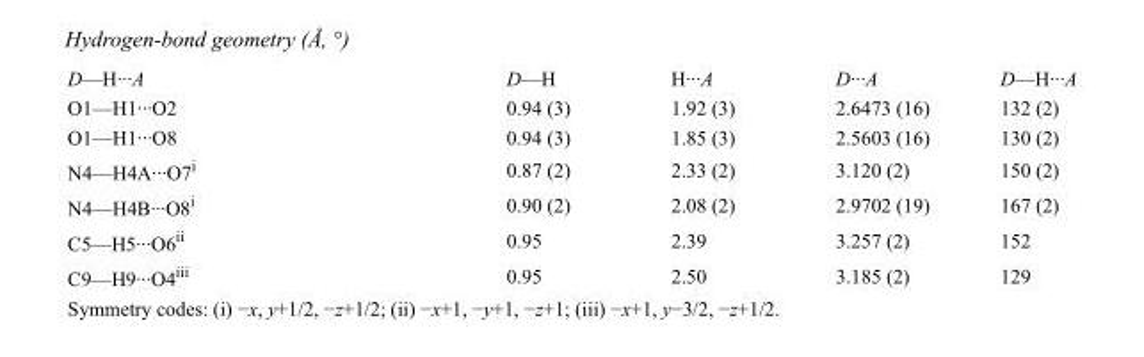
<table><tbody><tr><td>D—H···A</td><td>D—H</td><td>H···A</td><td>D···A</td><td>D—H···A</td></tr><tr><td>O1—H1···O2</td><td>0.94 (3)</td><td>1.92 (3)</td><td>2.6473 (16)</td><td>132 (2)</td></tr><tr><td>O1—H1···O8</td><td>0.94 (3)</td><td>1.85 (3)</td><td>2.5603 (16)</td><td>130 (2)</td></tr><tr><td>N4—H4A···O7<sup>i</sup></td><td>0.87 (2)</td><td>2.33 (2)</td><td>3.120 (2)</td><td>150 (2)</td></tr><tr><td>N4—H4B···O8<sup>i</sup></td><td>0.90 (2)</td><td>2.08 (2)</td><td>2.9702 (19)</td><td>167 (2)</td></tr><tr><td>C5—H5···O6<sup>ii</sup></td><td>0.95</td><td>2.39</td><td>3.257 (2)</td><td>152</td></tr><tr><td>C9—H9···O4<sup>iii</sup></td><td>0.95</td><td>2.50</td><td>3.185 (2)</td><td>129</td></tr></tbody></table>